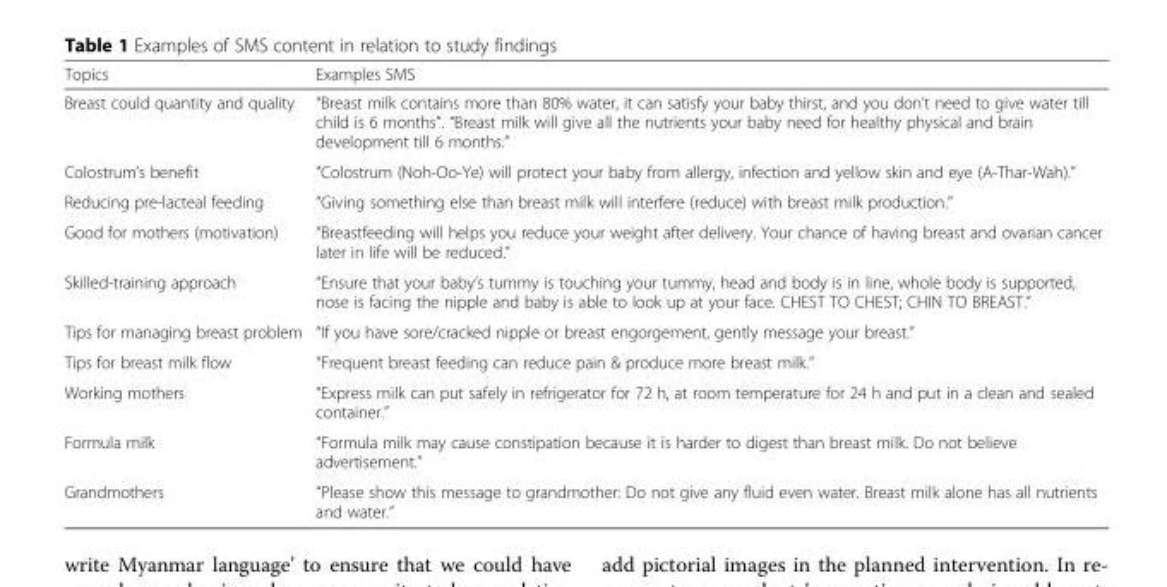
<table><thead><tr><td>Topics</td><td>Examples SMS</td></tr></thead><tbody><tr><td>Breast could quantity and quality</td><td>“Breast milk contains more than 80% water, it can satisfy your baby thirst, and you don’t need to give water till child is 6 months”. “Breast milk will give all the nutrients your baby need for healthy physical and brain development till 6 months.”</td></tr><tr><td>Colostrum’s benefit</td><td>“Colostrum (Noh-Oo-Ye) will protect your baby from allergy, infection and yellow skin and eye (A-Thar-Wah).”</td></tr><tr><td>Reducing pre-lacteal feeding</td><td>“Giving something else than breast milk will interfere (reduce) with breast milk production.”</td></tr><tr><td>Good for mothers (motivation)</td><td>“Breastfeeding will helps you reduce your weight after delivery. Your chance of having breast and ovarian cancer later in life will be reduced.”</td></tr><tr><td>Skilled-training approach</td><td>“Ensure that your baby’s tummy is touching your tummy, head and body is in line, whole body is supported, nose is facing the nipple and baby is able to look up at your face. CHEST TO CHEST; CHIN TO BREAST.”</td></tr><tr><td>Tips for managing breast problem</td><td>“If you have sore/cracked nipple or breast engorgement, gently message your breast.”</td></tr><tr><td>Tips for breast milk flow</td><td>“Frequent breast feeding can reduce pain &amp; produce more breast milk.”</td></tr><tr><td>Working mothers</td><td>“Express milk can put safely in refrigerator for 72 h, at room temperature for 24 h and put in a clean and sealed container.”</td></tr><tr><td>Formula milk</td><td>“Formula milk may cause constipation because it is harder to digest than breast milk. Do not believe advertisement.”</td></tr><tr><td>Grandmothers</td><td>“Please show this message to grandmother: Do not give any fluid even water. Breast milk alone has all nutrients and water.”</td></tr></tbody></table>